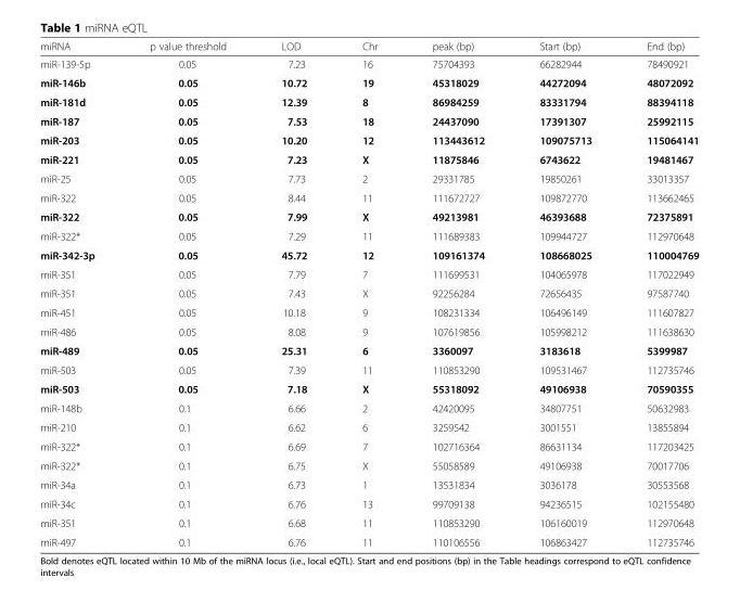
<table><thead><tr><td>miRNA</td><td>p value threshold</td><td>LOD</td><td>Chr</td><td>peak (bp)</td><td>Start (bp)</td><td>End (bp)</td></tr></thead><tbody><tr><td>miR-139-5p</td><td>0.05</td><td>7.23</td><td>16</td><td>75704393</td><td>66282944</td><td>78490921</td></tr><tr><td>miR-146b</td><td>0.05</td><td>10.72</td><td>19</td><td>45318029</td><td>44272094</td><td>48072092</td></tr><tr><td>miR-181d</td><td>0.05</td><td>12.39</td><td>8</td><td>86984259</td><td>83331794</td><td>88394118</td></tr><tr><td>miR-187</td><td>0.05</td><td>7.53</td><td>18</td><td>24437090</td><td>17391307</td><td>25992115</td></tr><tr><td>miR-203</td><td>0.05</td><td>10.20</td><td>12</td><td>113443612</td><td>109075713</td><td>115064141</td></tr><tr><td>miR-221</td><td>0.05</td><td>7.23</td><td>X</td><td>11875846</td><td>6743622</td><td>19481467</td></tr><tr><td>miR-25</td><td>0.05</td><td>7.73</td><td>2</td><td>29331785</td><td>19850261</td><td>33013357</td></tr><tr><td>miR-322</td><td>0.05</td><td>8.44</td><td>11</td><td>111672727</td><td>109872770</td><td>113662465</td></tr><tr><td>miR-322</td><td>0.05</td><td>7.99</td><td>X</td><td>49213981</td><td>46393688</td><td>72375891</td></tr><tr><td>miR-322*</td><td>0.05</td><td>7.29</td><td>11</td><td>111689383</td><td>109944727</td><td>112970648</td></tr><tr><td>miR-342-3p</td><td>0.05</td><td>45.72</td><td>12</td><td>109161374</td><td>108668025</td><td>110004769</td></tr><tr><td>miR-351</td><td>0.05</td><td>7.79</td><td>7</td><td>111699531</td><td>104065978</td><td>117022949</td></tr><tr><td>miR-351</td><td>0.05</td><td>7.43</td><td>X</td><td>92256284</td><td>72656435</td><td>97587740</td></tr><tr><td>miR-451</td><td>0.05</td><td>10.18</td><td>9</td><td>108231334</td><td>106496149</td><td>111607827</td></tr><tr><td>miR-486</td><td>0.05</td><td>8.08</td><td>9</td><td>107619856</td><td>105998212</td><td>111638630</td></tr><tr><td>miR-489</td><td>0.05</td><td>25.31</td><td>6</td><td>3360097</td><td>3183618</td><td>5399987</td></tr><tr><td>miR-503</td><td>0.05</td><td>7.39</td><td>11</td><td>110853290</td><td>109531467</td><td>112735746</td></tr><tr><td>miR-503</td><td>0.05</td><td>7.18</td><td>X</td><td>55318092</td><td>49106938</td><td>70590355</td></tr><tr><td>miR-148b</td><td>0.1</td><td>6.66</td><td>2</td><td>42420095</td><td>34807751</td><td>50632983</td></tr><tr><td>miR-210</td><td>0.1</td><td>6.62</td><td>6</td><td>3259542</td><td>3001551</td><td>13855894</td></tr><tr><td>miR-322*</td><td>0.1</td><td>6.69</td><td>7</td><td>102716364</td><td>86631134</td><td>117203425</td></tr><tr><td>miR-322*</td><td>0.1</td><td>6.75</td><td>X</td><td>55058589</td><td>49106938</td><td>70017706</td></tr><tr><td>miR-34a</td><td>0.1</td><td>6.73</td><td>1</td><td>13531834</td><td>3036178</td><td>30553568</td></tr><tr><td>miR-34c</td><td>0.1</td><td>6.76</td><td>13</td><td>99709138</td><td>94236515</td><td>102155480</td></tr><tr><td>miR-351</td><td>0.1</td><td>6.68</td><td>11</td><td>110853290</td><td>106160019</td><td>112970648</td></tr><tr><td>miR-497</td><td>0.1</td><td>6.76</td><td>11</td><td>110106556</td><td>106863427</td><td>112735746</td></tr></tbody></table>